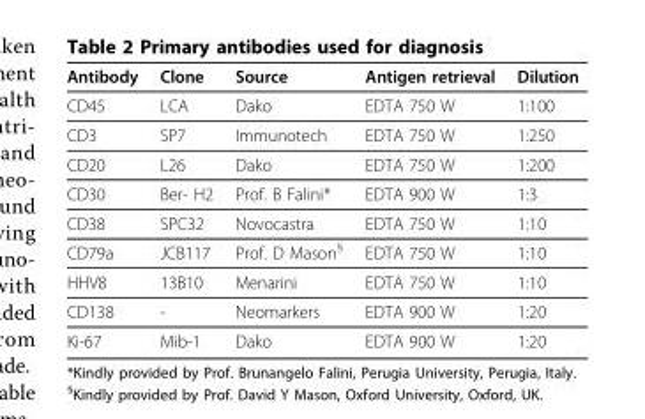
<table><thead><tr><td>Antibody</td><td>Clone</td><td>Source</td><td>Antigen retrieval</td><td>Dilution</td></tr></thead><tbody><tr><td>CD45</td><td>LCA</td><td>Dako</td><td>EDTA 750 W</td><td>1:100</td></tr><tr><td>CD3</td><td>SP7</td><td>Immunotech</td><td>EDTA 750 W</td><td>1:250</td></tr><tr><td>CD20</td><td>L26</td><td>Dako</td><td>EDTA 750 W</td><td>1:200</td></tr><tr><td>CD30</td><td>Ber- H2</td><td>Prof. B Falini*</td><td>EDTA 900 W</td><td>1:3</td></tr><tr><td>CD38</td><td>SPC32</td><td>Novocastra</td><td>EDTA 750 W</td><td>1:10</td></tr><tr><td>CD79a</td><td>JCB117</td><td>Prof. D Mason<sup>§</sup></td><td>EDTA 750 W</td><td>1:10</td></tr><tr><td>HHV8</td><td>13B10</td><td>Menarini</td><td>EDTA 750 W</td><td>1:10</td></tr><tr><td>CD138</td><td>-</td><td>Neomarkers</td><td>EDTA 900 W</td><td>1:20</td></tr><tr><td>Ki-67</td><td>Mib-1</td><td>Dako</td><td>EDTA 900 W</td><td>1:20</td></tr></tbody></table>